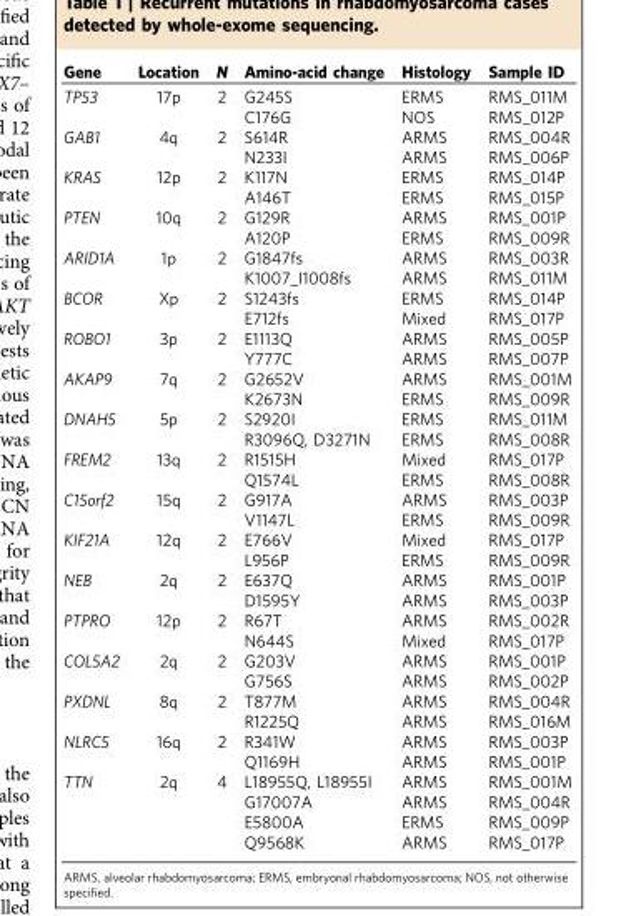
<table><thead><tr><td>Gene</td><td>Location</td><td>N</td><td>Amino-acid change</td><td>Histology</td><td>Sample ID</td></tr></thead><tbody><tr><td rowspan="2">TP53</td><td>17p</td><td>2</td><td>G245S</td><td>ERMS</td><td>RMS_011M</td></tr><tr><td></td><td></td><td>C176G</td><td>NOS</td><td>RMS_012P</td></tr><tr><td rowspan="2">GAB1</td><td>4q</td><td>2</td><td>S614R</td><td>ARMS</td><td>RMS_004R</td></tr><tr><td></td><td></td><td>N233I</td><td>ARMS</td><td>RMS_006P</td></tr><tr><td rowspan="2">KRAS</td><td>12p</td><td>2</td><td>K117N</td><td>ERMS</td><td>RMS_014P</td></tr><tr><td></td><td></td><td>A146T</td><td>ERMS</td><td>RMS_015P</td></tr><tr><td rowspan="2">PTEN</td><td>10q</td><td>2</td><td>G129R</td><td>ARMS</td><td>RMS_001P</td></tr><tr><td></td><td></td><td>A120P</td><td>ERMS</td><td>RMS_009R</td></tr><tr><td rowspan="2">ARID1A</td><td>1p</td><td>2</td><td>G1847fs</td><td>ARMS</td><td>RMS_003R</td></tr><tr><td></td><td></td><td>K1007_I1008fs</td><td>ARMS</td><td>RMS_011M</td></tr><tr><td rowspan="2">BCOR</td><td>Xp</td><td>2</td><td>S1243fs</td><td>ERMS</td><td>RMS_014P</td></tr><tr><td></td><td></td><td>E712fs</td><td>Mixed</td><td>RMS_017P</td></tr><tr><td rowspan="2">ROBO1</td><td>3p</td><td>2</td><td>E1113Q</td><td>ARMS</td><td>RMS_005P</td></tr><tr><td></td><td></td><td>Y777C</td><td>ARMS</td><td>RMS_007P</td></tr><tr><td rowspan="2">AKAP9</td><td>7q</td><td>2</td><td>G2652V</td><td>ARMS</td><td>RMS_001M</td></tr><tr><td></td><td></td><td>K2673N</td><td>ERMS</td><td>RMS_009R</td></tr><tr><td rowspan="2">DNAH5</td><td>5p</td><td>2</td><td>S2920I</td><td>ERMS</td><td>RMS_011M</td></tr><tr><td></td><td></td><td>R3096Q, D3271N</td><td>ERMS</td><td>RMS_008R</td></tr><tr><td rowspan="2">FREM2</td><td>13q</td><td>2</td><td>R1515H</td><td>Mixed</td><td>RMS_017P</td></tr><tr><td></td><td></td><td>Q1574L</td><td>ERMS</td><td>RMS_008R</td></tr><tr><td rowspan="2">C15orf2</td><td>15q</td><td>2</td><td>G917A</td><td>ARMS</td><td>RMS_003P</td></tr><tr><td></td><td></td><td>V1147L</td><td>ERMS</td><td>RMS_009R</td></tr><tr><td rowspan="2">KIF21A</td><td>12q</td><td>2</td><td>E766V</td><td>Mixed</td><td>RMS_017P</td></tr><tr><td></td><td></td><td>L956P</td><td>ERMS</td><td>RMS_009R</td></tr><tr><td rowspan="2">NEB</td><td>2q</td><td>2</td><td>E637Q</td><td>ARMS</td><td>RMS_001P</td></tr><tr><td></td><td></td><td>D1595Y</td><td>ARMS</td><td>RMS_003P</td></tr><tr><td rowspan="2">PTPRO</td><td>12p</td><td>2</td><td>R67T</td><td>ARMS</td><td>RMS_002R</td></tr><tr><td></td><td></td><td>N644S</td><td>Mixed</td><td>RMS_017P</td></tr><tr><td rowspan="2">COL5A2</td><td>2q</td><td>2</td><td>G203V</td><td>ARMS</td><td>RMS_001P</td></tr><tr><td></td><td></td><td>G756S</td><td>ARMS</td><td>RMS_002P</td></tr><tr><td rowspan="2">PXDNL</td><td>8q</td><td>2</td><td>T877M</td><td>ARMS</td><td>RMS_004R</td></tr><tr><td></td><td></td><td>R1225Q</td><td>ARMS</td><td>RMS_016M</td></tr><tr><td rowspan="2">NLRC5</td><td>16q</td><td>2</td><td>R341W</td><td>ARMS</td><td>RMS_003P</td></tr><tr><td></td><td></td><td>Q1169H</td><td>ARMS</td><td>RMS_001P</td></tr><tr><td rowspan="4">TTN</td><td>2q</td><td>4</td><td>L18955Q, L18955I</td><td>ARMS</td><td>RMS_001M</td></tr><tr><td></td><td></td><td>G17007A</td><td>ARMS</td><td>RMS_004R</td></tr><tr><td></td><td></td><td>E5800A</td><td>ERMS</td><td>RMS_009P</td></tr><tr><td></td><td></td><td>Q9568K</td><td>ARMS</td><td>RMS_017P</td></tr></tbody></table>